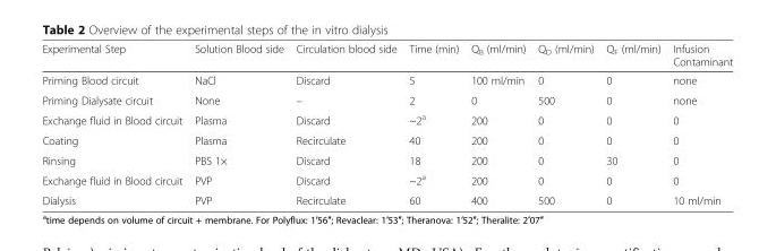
<table><thead><tr><td>Experimental Step</td><td>Solution Blood side</td><td>Circulation blood side</td><td>Time (min)</td><td>Q<sub>B</sub> (ml/min)</td><td>Q<sub>D</sub> (ml/min)</td><td>Q<sub>F</sub> (ml/min)</td><td>Infusion Contaminant</td></tr></thead><tbody><tr><td>Priming Blood circuit</td><td>NaCl</td><td>Discard</td><td>5</td><td>100 ml/min</td><td>0</td><td>0</td><td>none</td></tr><tr><td>Priming Dialysate circuit</td><td>None</td><td>–</td><td>2</td><td>0</td><td>500</td><td>0</td><td>none</td></tr><tr><td>Exchange fluid in Blood circuit</td><td>Plasma</td><td>Discard</td><td>~2<sup>a</sup></td><td>200</td><td>0</td><td>0</td><td>0</td></tr><tr><td>Coating</td><td>Plasma</td><td>Recirculate</td><td>40</td><td>200</td><td>0</td><td>0</td><td>0</td></tr><tr><td>Rinsing</td><td>PBS 1×</td><td>Discard</td><td>18</td><td>200</td><td>0</td><td>30</td><td>0</td></tr><tr><td>Exchange fluid in Blood circuit</td><td>PVP</td><td>Discard</td><td>~2<sup>a</sup></td><td>200</td><td>0</td><td>0</td><td>0</td></tr><tr><td>Dialysis</td><td>PVP</td><td>Recirculate</td><td>60</td><td>400</td><td>500</td><td>0</td><td>10 ml/min</td></tr></tbody></table>